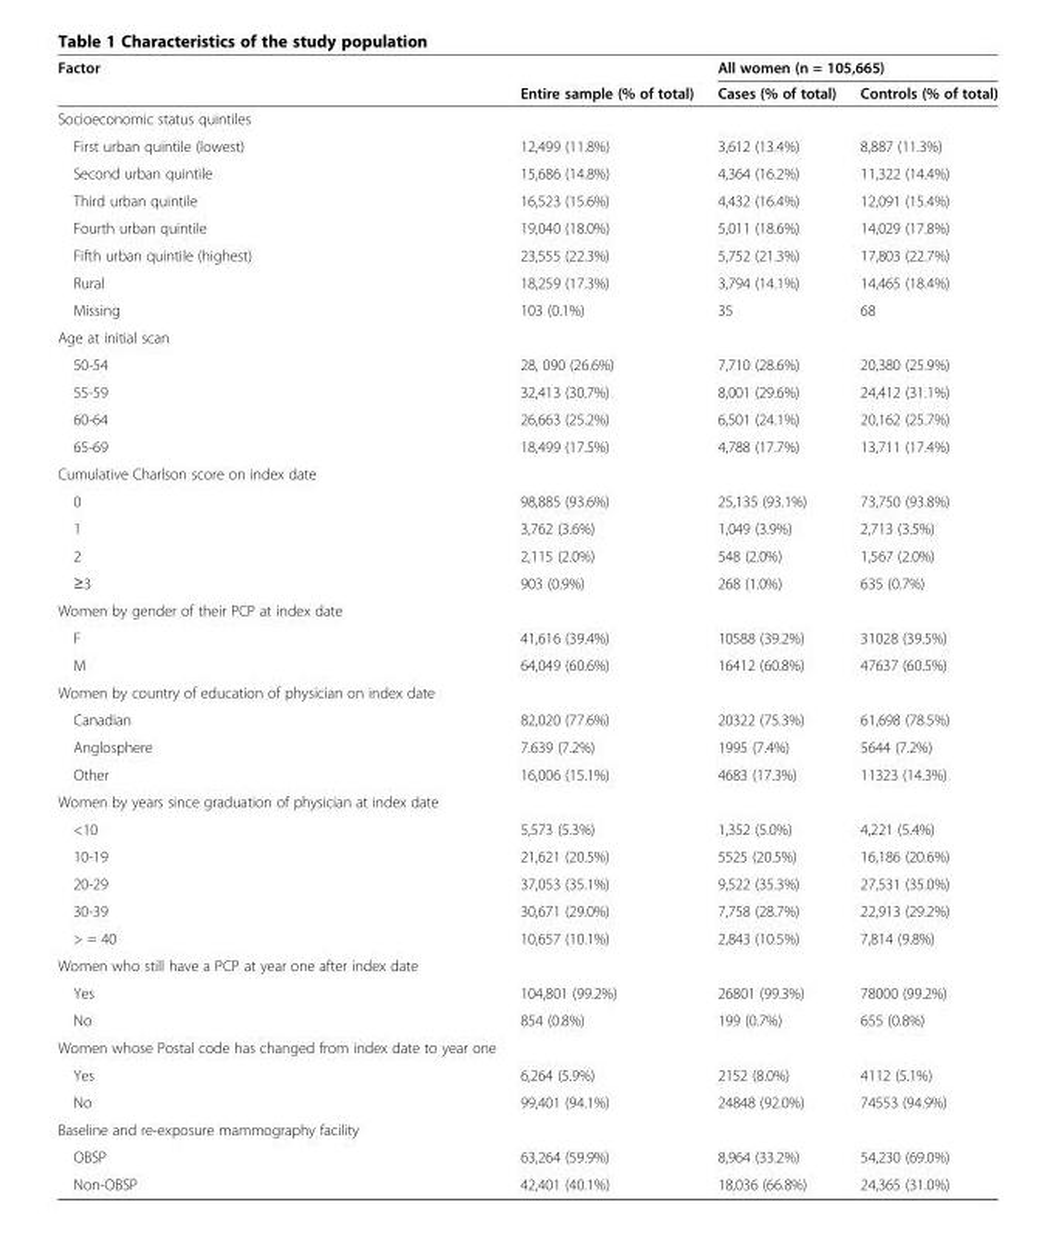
<table><thead><tr><td rowspan="2">Factor</td><td rowspan="2">Entire sample (% of total)</td><td colspan="2">All women (n = 105,665)</td></tr><tr><td>Cases (% of total)</td><td>Controls (% of total)</td></tr></thead><tbody><tr><td colspan="4">Socioeconomic status quintiles</td></tr><tr><td>First urban quintile (lowest)</td><td>12,499 (11.8%)</td><td>3,612 (13.4%)</td><td>8,887 (11.3%)</td></tr><tr><td>Second urban quintile</td><td>15,686 (14.8%)</td><td>4,364 (16.2%)</td><td>11,322 (14.4%)</td></tr><tr><td>Third urban quintile</td><td>16,523 (15.6%)</td><td>4,432 (16.4%)</td><td>12,091 (15.4%)</td></tr><tr><td>Fourth urban quintile</td><td>19,040 (18.0%)</td><td>5,011 (18.6%)</td><td>14,029 (17.8%)</td></tr><tr><td>Fifth urban quintile (highest)</td><td>23,555 (22.3%)</td><td>5,752 (21.3%)</td><td>17,803 (22.7%)</td></tr><tr><td>Rural</td><td>18,259 (17.3%)</td><td>3,794 (14.1%)</td><td>14,465 (18.4%)</td></tr><tr><td>Missing</td><td>103 (0.1%)</td><td>35</td><td>68</td></tr><tr><td colspan="4">Age at initial scan</td></tr><tr><td>50-54</td><td>28, 090 (26.6%)</td><td>7,710 (28.6%)</td><td>20,380 (25.9%)</td></tr><tr><td>55-59</td><td>32,413 (30.7%)</td><td>8,001 (29.6%)</td><td>24,412 (31.1%)</td></tr><tr><td>60-64</td><td>26,663 (25.2%)</td><td>6,501 (24.1%)</td><td>20,162 (25.7%)</td></tr><tr><td>65-69</td><td>18,499 (17.5%)</td><td>4,788 (17.7%)</td><td>13,711 (17.4%)</td></tr><tr><td colspan="4">Cumulative Charlson score on index date</td></tr><tr><td>0</td><td>98,885 (93.6%)</td><td>25,135 (93.1%)</td><td>73,750 (93.8%)</td></tr><tr><td>1</td><td>3,762 (3.6%)</td><td>1,049 (3.9%)</td><td>2,713 (3.5%)</td></tr><tr><td>2</td><td>2,115 (2.0%)</td><td>548 (2.0%)</td><td>1,567 (2.0%)</td></tr><tr><td>≥3</td><td>903 (0.9%)</td><td>268 (1.0%)</td><td>635 (0.7%)</td></tr><tr><td colspan="4">Women by gender of their PCP at index date</td></tr><tr><td>F</td><td>41,616 (39.4%)</td><td>10588 (39.2%)</td><td>31028 (39.5%)</td></tr><tr><td>M</td><td>64,049 (60.6%)</td><td>16412 (60.8%)</td><td>47637 (60.5%)</td></tr><tr><td colspan="4">Women by country of education of physician on index date</td></tr><tr><td>Canadian</td><td>82,020 (77.6%)</td><td>20322 (75.3%)</td><td>61,698 (78.5%)</td></tr><tr><td>Anglosphere</td><td>7.639 (7.2%)</td><td>1995 (7.4%)</td><td>5644 (7.2%)</td></tr><tr><td>Other</td><td>16,006 (15.1%)</td><td>4683 (17.3%)</td><td>11323 (14.3%)</td></tr><tr><td colspan="4">Women by years since graduation of physician at index date</td></tr><tr><td>&lt;10</td><td>5,573 (5.3%)</td><td>1,352 (5.0%)</td><td>4,221 (5.4%)</td></tr><tr><td>10-19</td><td>21,621 (20.5%)</td><td>5525 (20.5%)</td><td>16,186 (20.6%)</td></tr><tr><td>20-29</td><td>37,053 (35.1%)</td><td>9,522 (35.3%)</td><td>27,531 (35.0%)</td></tr><tr><td>30-39</td><td>30,671 (29.0%)</td><td>7,758 (28.7%)</td><td>22,913 (29.2%)</td></tr><tr><td>&gt; = 40</td><td>10,657 (10.1%)</td><td>2,843 (10.5%)</td><td>7,814 (9.8%)</td></tr><tr><td colspan="4">Women who still have a PCP at year one after index date</td></tr><tr><td>Yes</td><td>104,801 (99.2%)</td><td>26801 (99.3%)</td><td>78000 (99.2%)</td></tr><tr><td>No</td><td>854 (0.8%)</td><td>199 (0.7%)</td><td>655 (0.8%)</td></tr><tr><td colspan="4">Women whose Postal code has changed from index date to year one</td></tr><tr><td>Yes</td><td>6,264 (5.9%)</td><td>2152 (8.0%)</td><td>4112 (5.1%)</td></tr><tr><td>No</td><td>99,401 (94.1%)</td><td>24848 (92.0%)</td><td>74553 (94.9%)</td></tr><tr><td colspan="4">Baseline and re-exposure mammography facility</td></tr><tr><td>OBSP</td><td>63,264 (59.9%)</td><td>8,964 (33.2%)</td><td>54,230 (69.0%)</td></tr><tr><td>Non-OBSP</td><td>42,401 (40.1%)</td><td>18,036 (66.8%)</td><td>24,365 (31.0%)</td></tr></tbody></table>